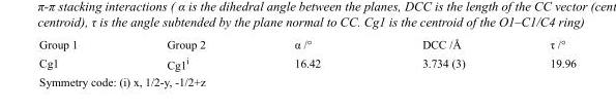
<table><tbody><tr><td>Group 1</td><td>Group 2</td><td>α /°</td><td>DCC /Å</td><td>τ /°</td></tr><tr><td>Cg1</td><td>Cg1<sup>i</sup></td><td>16.42</td><td>3.734 (3)</td><td>19.96</td></tr></tbody></table>